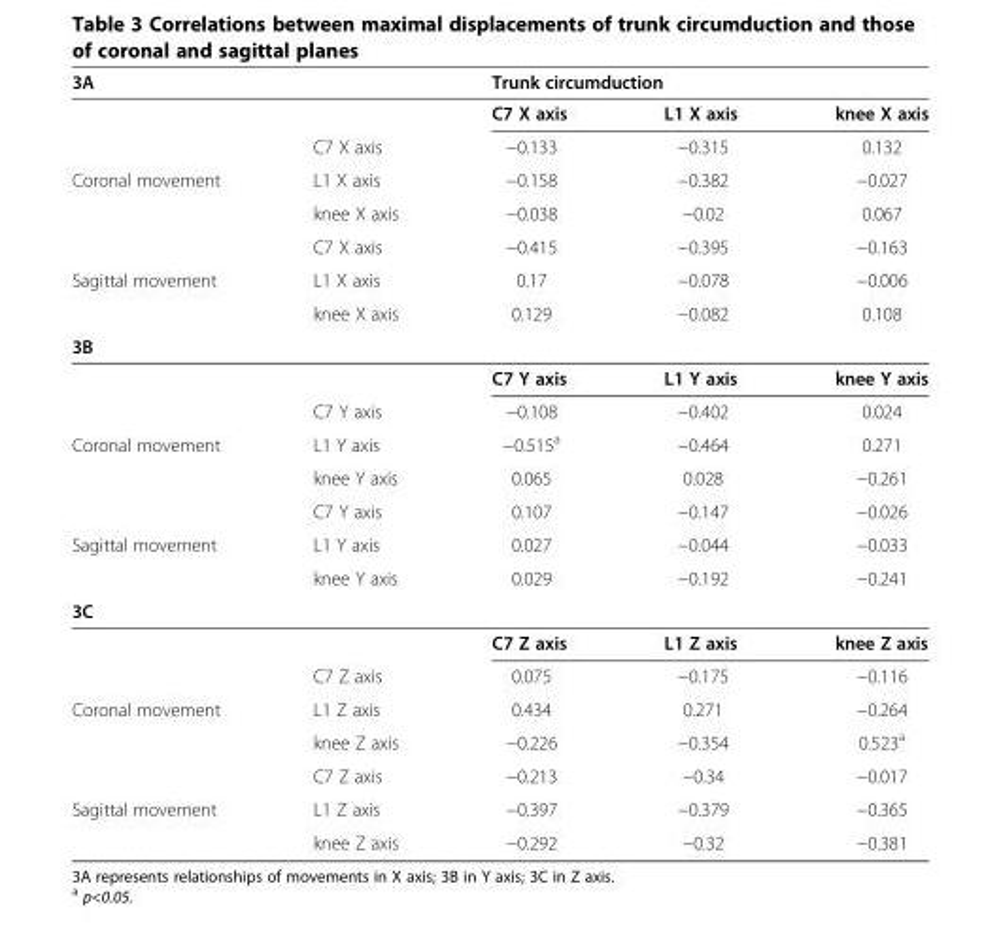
<table><thead><tr><td colspan="2">3A</td><td colspan="2">Trunk circumduction</td><td rowspan="2">knee X axis</td></tr><tr><td></td><td></td><td>C7 X axis</td><td>L1 X axis</td></tr></thead><tbody><tr><td></td><td>C7 X axis</td><td>−0.133</td><td>−0.315</td><td>0.132</td></tr><tr><td rowspan="3">Coronal movement</td><td>L1 X axis</td><td>−0.158</td><td>−0.382</td><td>−0.027</td></tr><tr><td>knee X axis</td><td>−0.038</td><td>−0.02</td><td>0.067</td></tr><tr><td>C7 X axis</td><td>−0.415</td><td>−0.395</td><td>−0.163</td></tr><tr><td rowspan="2">Sagittal movement</td><td>L1 X axis</td><td>0.17</td><td>−0.078</td><td>−0.006</td></tr><tr><td>knee X axis</td><td>0.129</td><td>−0.082</td><td>0.108</td></tr><tr><td colspan="5">3B</td></tr><tr><td></td><td></td><td>C7 Y axis</td><td>L1 Y axis</td><td>knee Y axis</td></tr><tr><td></td><td>C7 Y axis</td><td>−0.108</td><td>−0.402</td><td>0.024</td></tr><tr><td rowspan="3">Coronal movement</td><td>L1 Y axis</td><td>−0.515<sup>a</sup></td><td>−0.464</td><td>0.271</td></tr><tr><td>knee Y axis</td><td>0.065</td><td>0.028</td><td>−0.261</td></tr><tr><td>C7 Y axis</td><td>0.107</td><td>−0.147</td><td>−0.026</td></tr><tr><td rowspan="2">Sagittal movement</td><td>L1 Y axis</td><td>0.027</td><td>−0.044</td><td>−0.033</td></tr><tr><td>knee Y axis</td><td>0.029</td><td>−0.192</td><td>−0.241</td></tr><tr><td colspan="5">3C</td></tr><tr><td></td><td></td><td>C7 Z axis</td><td>L1 Z axis</td><td>knee Z axis</td></tr><tr><td></td><td>C7 Z axis</td><td>0.075</td><td>−0.175</td><td>−0.116</td></tr><tr><td rowspan="3">Coronal movement</td><td>L1 Z axis</td><td>0.434</td><td>0.271</td><td>−0.264</td></tr><tr><td>knee Z axis</td><td>−0.226</td><td>−0.354</td><td>0.523<sup>a</sup></td></tr><tr><td>C7 Z axis</td><td>−0.213</td><td>−0.34</td><td>−0.017</td></tr><tr><td rowspan="2">Sagittal movement</td><td>L1 Z axis</td><td>−0.397</td><td>−0.379</td><td>−0.365</td></tr><tr><td>knee Z axis</td><td>−0.292</td><td>−0.32</td><td>−0.381</td></tr></tbody></table>